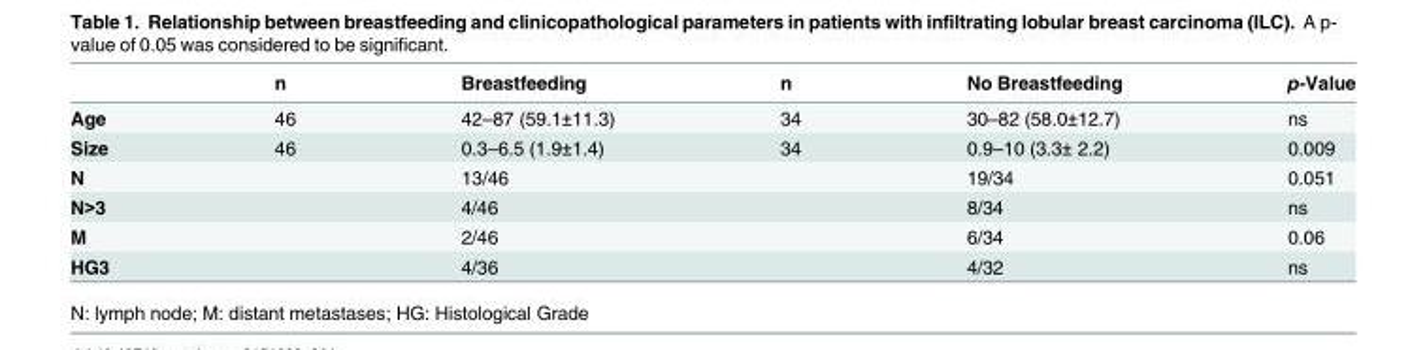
<table><thead><tr><td></td><td>n</td><td>Breastfeeding</td><td>n</td><td>No Breastfeeding</td><td>p-Value</td></tr></thead><tbody><tr><td>Age</td><td>46</td><td>42–87 (59.1±11.3)</td><td>34</td><td>30–82 (58.0±12.7)</td><td>ns</td></tr><tr><td>Size</td><td>46</td><td>0.3–6.5 (1.9±1.4)</td><td>34</td><td>0.9–10 (3.3± 2.2)</td><td>0.009</td></tr><tr><td>N</td><td></td><td>13/46</td><td></td><td>19/34</td><td>0.051</td></tr><tr><td>N&gt;3</td><td></td><td>4/46</td><td></td><td>8/34</td><td>ns</td></tr><tr><td>M</td><td></td><td>2/46</td><td></td><td>6/34</td><td>0.06</td></tr><tr><td>HG3</td><td></td><td>4/36</td><td></td><td>4/32</td><td>ns</td></tr></tbody></table>